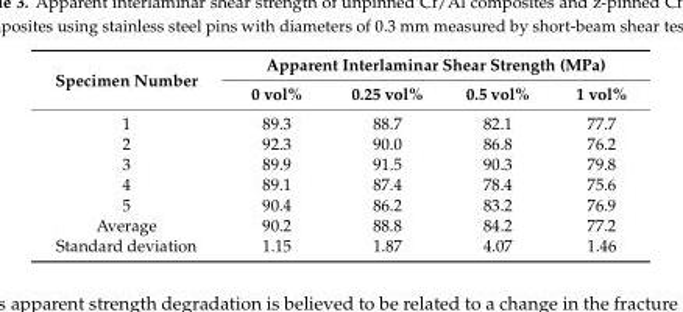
<table><thead><tr><td rowspan="2">Specimen Number</td><td colspan="4">Apparent Interlaminar Shear Strength (MPa)</td></tr><tr><td>0 vol%</td><td>0.25 vol%</td><td>0.5 vol%</td><td>1 vol%</td></tr></thead><tbody><tr><td>1</td><td>89.3</td><td>88.7</td><td>82.1</td><td>77.7</td></tr><tr><td>2</td><td>92.3</td><td>90.0</td><td>86.8</td><td>76.2</td></tr><tr><td>3</td><td>89.9</td><td>91.5</td><td>90.3</td><td>79.8</td></tr><tr><td>4</td><td>89.1</td><td>87.4</td><td>78.4</td><td>75.6</td></tr><tr><td>5</td><td>90.4</td><td>86.2</td><td>83.2</td><td>76.9</td></tr><tr><td>Average</td><td>90.2</td><td>88.8</td><td>84.2</td><td>77.2</td></tr><tr><td>Standard deviation</td><td>1.15</td><td>1.87</td><td>4.07</td><td>1.46</td></tr></tbody></table>